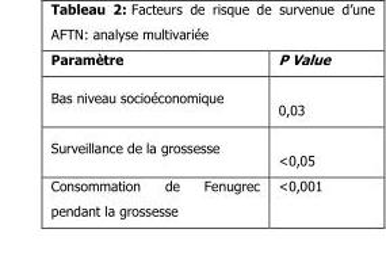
<table><thead><tr><td>Paramètre</td><td>P Value</td></tr></thead><tbody><tr><td>Bas niveau socioéconomique</td><td>0,03</td></tr><tr><td>Surveillance de la grossesse</td><td>&lt;0,05</td></tr><tr><td>Consommation de Fenugrec pendant la grossesse</td><td>&lt;0,001</td></tr></tbody></table>